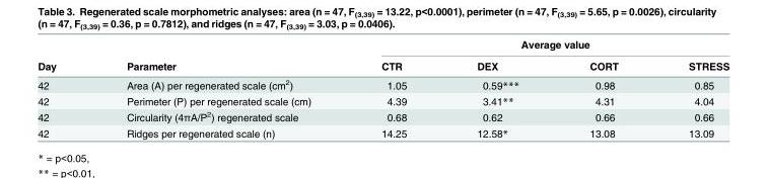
<table><thead><tr><td rowspan="2">Day</td><td rowspan="2">Parameter</td><td colspan="4">Average value</td></tr><tr><td>CTR</td><td>DEX</td><td>CORT</td><td>STRESS</td></tr></thead><tbody><tr><td>42</td><td>Area (A) per regenerated scale (cm<sup>2</sup>)</td><td>1.05</td><td>0.59***</td><td>0.98</td><td>0.85</td></tr><tr><td>42</td><td>Perimeter (P) per regenerated scale (cm)</td><td>4.39</td><td>3.41**</td><td>4.31</td><td>4.04</td></tr><tr><td>42</td><td>Circularity (4πA/P<sup>2</sup>) regenerated scale</td><td>0.68</td><td>0.62</td><td>0.66</td><td>0.66</td></tr><tr><td>42</td><td>Ridges per regenerated scale (n)</td><td>14.25</td><td>12.58*</td><td>13.08</td><td>13.09</td></tr></tbody></table>